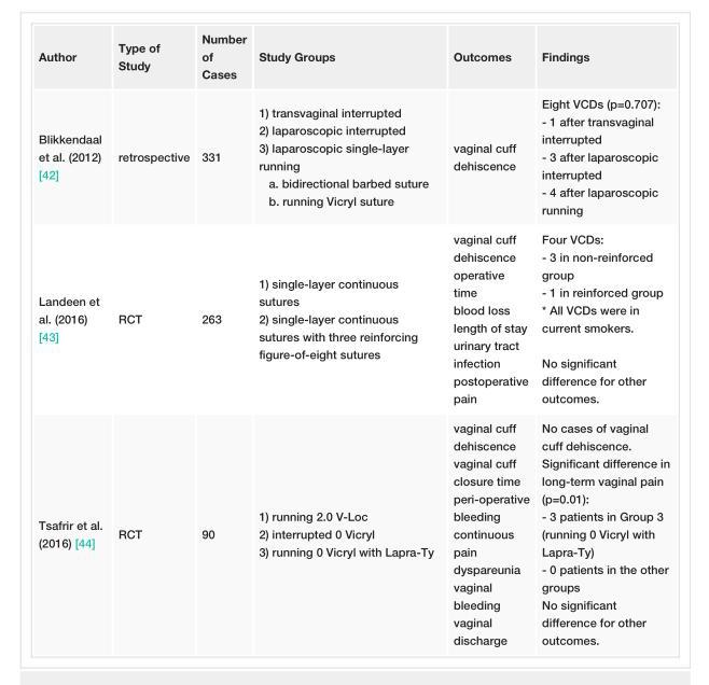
<table><tbody><tr><td>Author</td><td>Type of Study</td><td>Number of Cases</td><td>Study Groups</td><td>Outcomes</td><td>Findings</td></tr><tr><td>Blikkendaal et al. (2012) [42]</td><td>retrospective</td><td>331</td><td>1) transvaginal interrupted 2) laparoscopic interrupted 3) laparoscopic single-layer running a. bidirectional barbed suture b. running Vicryl suture</td><td>vaginal cuff dehiscence</td><td>Eight VCDs (p=0.707): - 1 after transvaginal interrupted - 3 after laparoscopic interrupted - 4 after laparoscopic running</td></tr><tr><td>Landeen et al. (2016) [43]</td><td>RCT</td><td>263</td><td>1) single-layer continuous sutures 2) single-layer continuous sutures with three reinforcing figure-of-eight sutures</td><td>vaginal cuff dehiscence operative time blood loss length of stay urinary tract infection postoperative pain</td><td>Four VCDs: - 3 in non-reinforced group - 1 in reinforced group * All VCDs were in current smokers. No significant difference for other outcomes.</td></tr><tr><td>Tsafrir et al. (2016) [44]</td><td>RCT</td><td>90</td><td>1) running 2.0 V-Loc 2) interrupted 0 Vicryl 3) running 0 Vicryl with Lapra-Ty</td><td>vaginal cuff dehiscence vaginal cuff closure time peri-operative bleeding continuous pain dyspareunia vaginal bleeding vaginal discharge</td><td>No cases of vaginal cuff dehiscence. Significant difference in long-term vaginal pain (p=0.01): - 3 patients in Group 3 (running 0 Vicryl with Lapra-Ty) - 0 patients in the other groups No significant difference for other outcomes.</td></tr></tbody></table>